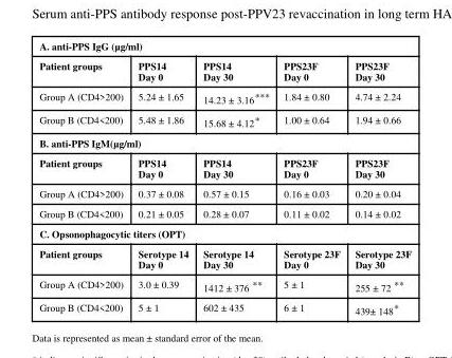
<table><tbody><tr><td colspan="5">A. anti-PPS IgG (µg/ml)</td></tr><tr><td>Patient groups</td><td>PPS14 Day 0</td><td>PPS14 Day 30</td><td>PPS23F Day 0</td><td>PPS23F Day 30</td></tr><tr><td>Group A (CD4&gt;200)</td><td>5.24 ± 1.65</td><td>14.23 ± 3.16***</td><td>1.84 ± 0.80</td><td>4.74 ± 2.24</td></tr><tr><td>Group B (CD4&lt;200)</td><td>5.48 ± 1.86</td><td>15.68 ± 4.12*</td><td>1.00 ± 0.64</td><td>1.94 ± 0.66</td></tr><tr><td colspan="5">B. anti-PPS IgM(µg/ml)</td></tr><tr><td>Patient groups</td><td>PPS14 Day 0</td><td>PPS14 Day 30</td><td>PPS23F Day 0</td><td>PPS23F Day 30</td></tr><tr><td>Group A (CD4&gt;200)</td><td>0.37 ± 0.08</td><td>0.57 ± 0.15</td><td>0.16 ± 0.03</td><td>0.20 ± 0.04</td></tr><tr><td>Group B (CD4&lt;200)</td><td>0.21 ± 0.05</td><td>0.28 ± 0.07</td><td>0.11 ± 0.02</td><td>0.14 ± 0.02</td></tr><tr><td colspan="5">C. Opsonophagocytic titers (OPT)</td></tr><tr><td>Patient groups</td><td>Serotype 14 Day 0</td><td>Serotype 14 Day 30</td><td>Serotype 23F Day 0</td><td>Serotype 23F Day 30</td></tr><tr><td>Group A (CD4&gt;200)</td><td>3.0 ± 0.39</td><td>1412 ± 376 **</td><td>5 ± 1</td><td>255 ± 72 **</td></tr><tr><td>Group B (CD4&lt;200)</td><td>5 ± 1</td><td>602 ± 435</td><td>6 ± 1</td><td>439± 148*</td></tr></tbody></table>